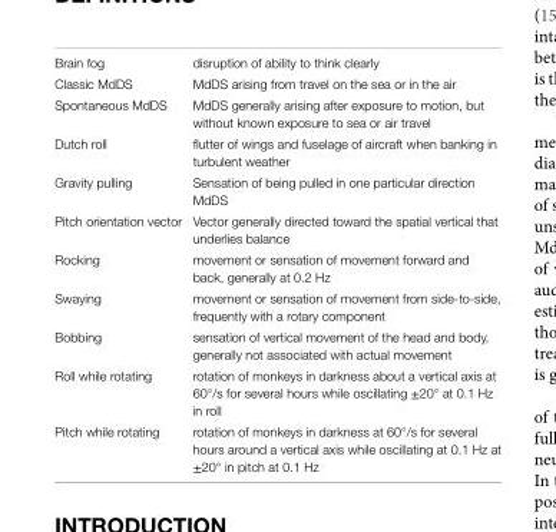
<table><tbody><tr><td>Brain fog</td><td>disruption of ability to think clearly</td></tr><tr><td>Classic MdDS</td><td>MdDS arising from travel on the sea or in the air</td></tr><tr><td>Spontaneous MdDS</td><td>MdDS generally arising after exposure to motion, but without known exposure to sea or air travel</td></tr><tr><td>Dutch roll</td><td>flutter of wings and fuselage of aircraft when banking in turbulent weather</td></tr><tr><td>Gravity pulling</td><td>Sensation of being pulled in one particular direction MdDS</td></tr><tr><td>Pitch orientation vector</td><td>Vector generally directed toward the spatial vertical that underlies balance</td></tr><tr><td>Rocking</td><td>movement or sensation of movement forward and back, generally at 0.2 Hz</td></tr><tr><td>Swaying</td><td>movement or sensation of movement from side-to-side, frequently with a rotary component</td></tr><tr><td>Bobbing</td><td>sensation of vertical movement of the head and body, generally not associated with actual movement</td></tr><tr><td>Roll while rotating</td><td>rotation of monkeys in darkness about a vertical axis at 60°/s for several hours while oscillating ±20° at 0.1 Hz in roll</td></tr><tr><td>Pitch while rotating</td><td>rotation of monkeys in darkness at 60°/s for several hours around a vertical axis while oscillating at 0.1 Hz at ±20° in pitch at 0.1 Hz</td></tr></tbody></table>